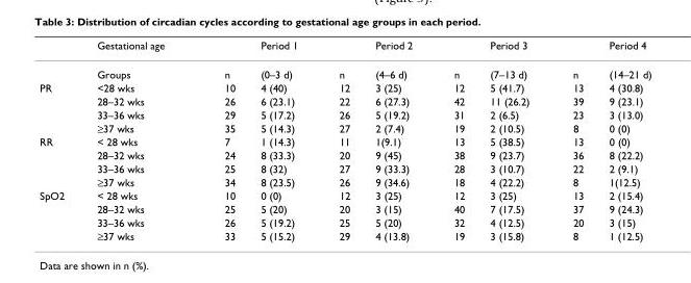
<table><thead><tr><td></td><td>Gestational age</td><td></td><td>Period 1</td><td></td><td>Period 2</td><td></td><td>Period 3</td><td></td><td>Period 4</td></tr></thead><tbody><tr><td></td><td>Groups</td><td>n</td><td>(0–3 d)</td><td>n</td><td>(4–6 d)</td><td>n</td><td>(7–13 d)</td><td>n</td><td>(14–21 d)</td></tr><tr><td rowspan="4">PR</td><td>&lt;28 wks</td><td>10</td><td>4 (40)</td><td>12</td><td>3 (25)</td><td>12</td><td>5 (41.7)</td><td>13</td><td>4 (30.8)</td></tr><tr><td>28–32 wks</td><td>26</td><td>6 (23.1)</td><td>22</td><td>6 (27.3)</td><td>42</td><td>11 (26.2)</td><td>39</td><td>9 (23.1)</td></tr><tr><td>33–36 wks</td><td>29</td><td>5 (17.2)</td><td>26</td><td>5 (19.2)</td><td>31</td><td>2 (6.5)</td><td>23</td><td>3 (13.0)</td></tr><tr><td>≥37 wks</td><td>35</td><td>5 (14.3)</td><td>27</td><td>2 (7.4)</td><td>19</td><td>2 (10.5)</td><td>8</td><td>0 (0)</td></tr><tr><td rowspan="4">RR</td><td>&lt; 28 wks</td><td>7</td><td>1 (14.3)</td><td>11</td><td>1(9.1)</td><td>13</td><td>5 (38.5)</td><td>13</td><td>0 (0)</td></tr><tr><td>28–32 wks</td><td>24</td><td>8 (33.3)</td><td>20</td><td>9 (45)</td><td>38</td><td>9 (23.7)</td><td>36</td><td>8 (22.2)</td></tr><tr><td>33–36 wks</td><td>25</td><td>8 (32)</td><td>27</td><td>9 (33.3)</td><td>28</td><td>3 (10.7)</td><td>22</td><td>2 (9.1)</td></tr><tr><td>≥37 wks</td><td>34</td><td>8 (23.5)</td><td>26</td><td>9 (34.6)</td><td>18</td><td>4 (22.2)</td><td>8</td><td>1(12.5)</td></tr><tr><td rowspan="4">SpO2</td><td>&lt; 28 wks</td><td>10</td><td>0 (0)</td><td>12</td><td>3 (25)</td><td>12</td><td>3 (25)</td><td>13</td><td>2 (15.4)</td></tr><tr><td>28–32 wks</td><td>25</td><td>5 (20)</td><td>20</td><td>3 (15)</td><td>40</td><td>7 (17.5)</td><td>37</td><td>9 (24.3)</td></tr><tr><td>33–36 wks</td><td>26</td><td>5 (19.2)</td><td>25</td><td>5 (20)</td><td>32</td><td>4 (12.5)</td><td>20</td><td>3 (15)</td></tr><tr><td>≥37 wks</td><td>33</td><td>5 (15.2)</td><td>29</td><td>4 (13.8)</td><td>19</td><td>3 (15.8)</td><td>8</td><td>1 (12.5)</td></tr></tbody></table>